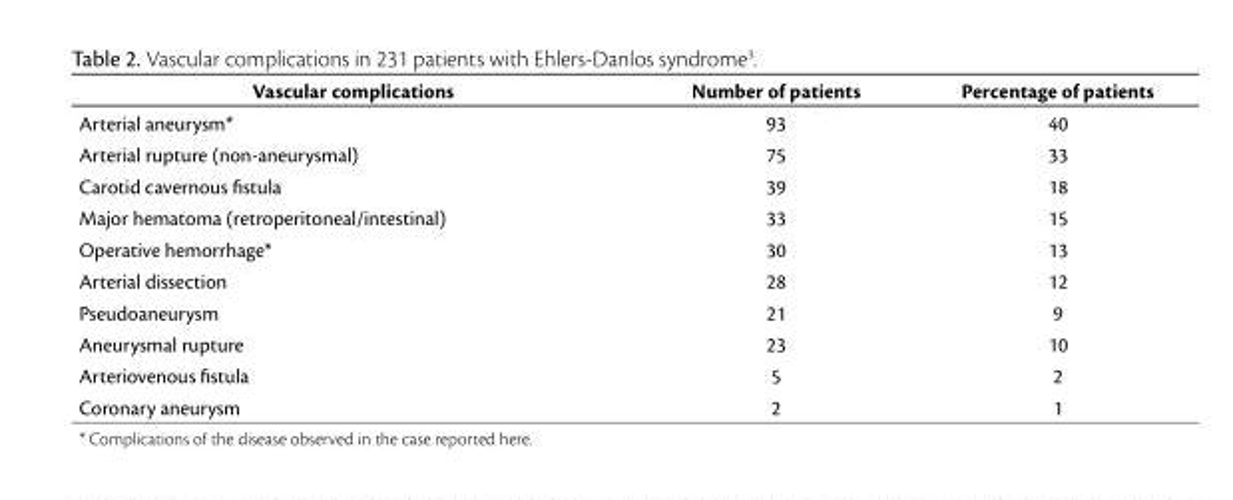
<table><thead><tr><td>Vascular complications</td><td>Number of patients</td><td>Percentage of patients</td></tr></thead><tbody><tr><td>Arterial aneurysm*</td><td>93</td><td>40</td></tr><tr><td>Arterial rupture (non-aneurysmal)</td><td>75</td><td>33</td></tr><tr><td>Carotid cavernous fistula</td><td>39</td><td>18</td></tr><tr><td>Major hematoma (retroperitoneal/intestinal)</td><td>33</td><td>15</td></tr><tr><td>Operative hemorrhage*</td><td>30</td><td>13</td></tr><tr><td>Arterial dissection</td><td>28</td><td>12</td></tr><tr><td>Pseudoaneurysm</td><td>21</td><td>9</td></tr><tr><td>Aneurysmal rupture</td><td>23</td><td>10</td></tr><tr><td>Arteriovenous fistula</td><td>5</td><td>2</td></tr><tr><td>Coronary aneurysm</td><td>2</td><td>1</td></tr></tbody></table>